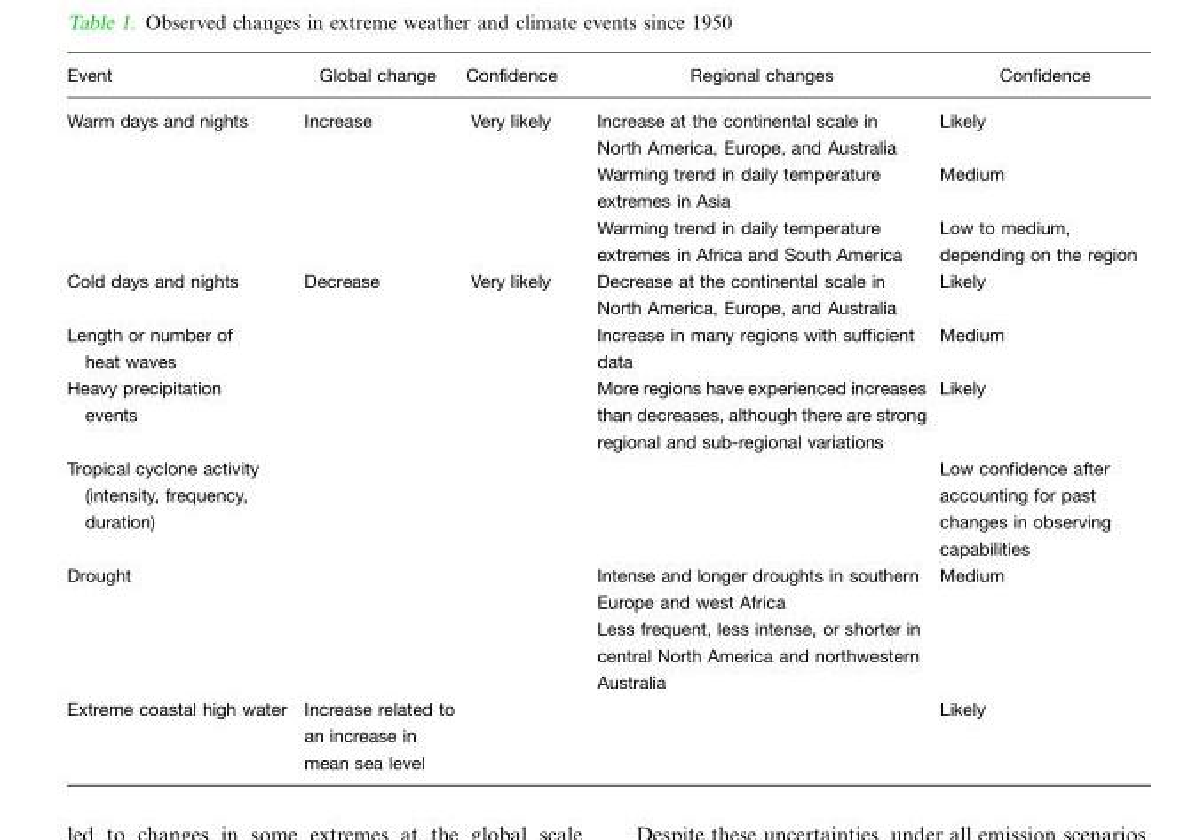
<table><thead><tr><td>Event</td><td>Global change</td><td>Confidence</td><td>Regional changes</td><td>Confidence</td></tr></thead><tbody><tr><td rowspan="3">Warm days and nights</td><td>Increase</td><td>Very likely</td><td>Increase at the continental scale in North America, Europe, and Australia</td><td>Likely</td></tr><tr><td></td><td></td><td>Warming trend in daily temperature extremes in Asia</td><td>Medium</td></tr><tr><td></td><td></td><td>Warming trend in daily temperature extremes in Africa and South America</td><td>Low to medium, depending on the region</td></tr><tr><td>Cold days and nights</td><td>Decrease</td><td>Very likely</td><td>Decrease at the continental scale in North America, Europe, and Australia</td><td>Likely</td></tr><tr><td>Length or number of heat waves</td><td></td><td></td><td>Increase in many regions with sufficient data</td><td>Medium</td></tr><tr><td>Heavy precipitation events</td><td></td><td></td><td>More regions have experienced increases than decreases, although there are strong regional and sub-regional variations</td><td>Likely</td></tr><tr><td>Tropical cyclone activity (intensity, frequency, duration)</td><td></td><td></td><td></td><td>Low confidence after accounting for past changes in observing capabilities</td></tr><tr><td rowspan="2">Drought</td><td></td><td></td><td>Intense and longer droughts in southern Europe and west Africa</td><td>Medium</td></tr><tr><td></td><td></td><td>Less frequent, less intense, or shorter in central North America and northwestern Australia</td><td></td></tr><tr><td>Extreme coastal high water</td><td>Increase related to an increase in mean sea level</td><td></td><td></td><td>Likely</td></tr></tbody></table>